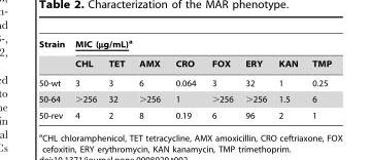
<table><thead><tr><td rowspan="2">Strain</td><td colspan="8">MIC (µg/mL)a</td></tr><tr><td>CHL</td><td>TET</td><td>AMX</td><td>CRO</td><td>FOX</td><td>ERY</td><td>KAN</td><td>TMP</td></tr></thead><tbody><tr><td>50-wt</td><td>3</td><td>3</td><td>6</td><td>0.064</td><td>3</td><td>32</td><td>1</td><td>0.25</td></tr><tr><td>50-64</td><td>&gt;256</td><td>32</td><td>&gt;256</td><td>1</td><td>&gt;256</td><td>&gt;256</td><td>1.5</td><td>6</td></tr><tr><td>50-rev</td><td>4</td><td>2</td><td>8</td><td>0.19</td><td>6</td><td>96</td><td>2</td><td>1</td></tr></tbody></table>